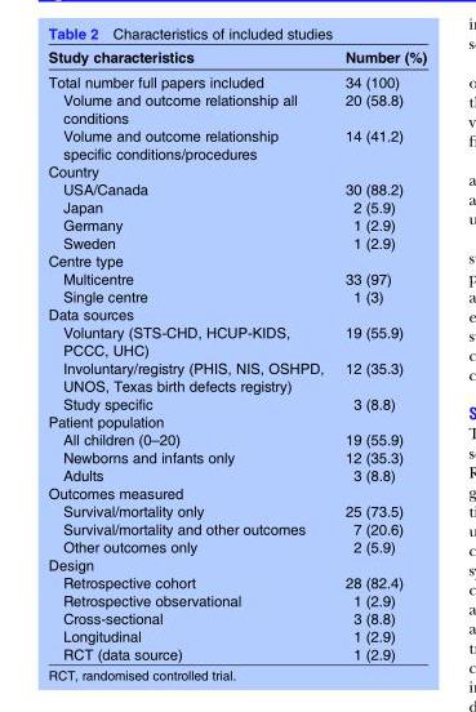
<table><thead><tr><td>Study characteristics</td><td>Number (%)</td></tr></thead><tbody><tr><td>Total number full papers included</td><td>34 (100)</td></tr><tr><td>Volume and outcome relationship all conditions</td><td>20 (58.8)</td></tr><tr><td>Volume and outcome relationship specific conditions/procedures</td><td>14 (41.2)</td></tr><tr><td colspan="2">Country</td></tr><tr><td>USA/Canada</td><td>30 (88.2)</td></tr><tr><td>Japan</td><td>2 (5.9)</td></tr><tr><td>Germany</td><td>1 (2.9)</td></tr><tr><td>Sweden</td><td>1 (2.9)</td></tr><tr><td colspan="2">Centre type</td></tr><tr><td>Multicentre</td><td>33 (97)</td></tr><tr><td>Single centre</td><td>1 (3)</td></tr><tr><td colspan="2">Data sources</td></tr><tr><td>Voluntary (STS-CHD, HCUP-KIDS, PCCC, UHC)</td><td>19 (55.9)</td></tr><tr><td>Involuntary/registry (PHIS, NIS, OSHPD, UNOS, Texas birth defects registry)</td><td>12 (35.3)</td></tr><tr><td>Study specific</td><td>3 (8.8)</td></tr><tr><td colspan="2">Patient population</td></tr><tr><td>All children (0–20)</td><td>19 (55.9)</td></tr><tr><td>Newborns and infants only</td><td>12 (35.3)</td></tr><tr><td>Adults</td><td>3 (8.8)</td></tr><tr><td colspan="2">Outcomes measured</td></tr><tr><td>Survival/mortality only</td><td>25 (73.5)</td></tr><tr><td>Survival/mortality and other outcomes</td><td>7 (20.6)</td></tr><tr><td>Other outcomes only</td><td>2 (5.9)</td></tr><tr><td colspan="2">Design</td></tr><tr><td>Retrospective cohort</td><td>28 (82.4)</td></tr><tr><td>Retrospective observational</td><td>1 (2.9)</td></tr><tr><td>Cross-sectional</td><td>3 (8.8)</td></tr><tr><td>Longitudinal</td><td>1 (2.9)</td></tr><tr><td>RCT (data source)</td><td>1 (2.9)</td></tr></tbody></table>